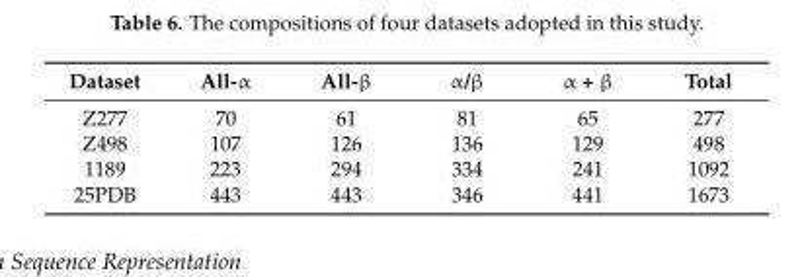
<table><thead><tr><td>Dataset</td><td>All-α</td><td>All-β</td><td>α/β</td><td>α + β</td><td>Total</td></tr></thead><tbody><tr><td>Z277</td><td>70</td><td>61</td><td>81</td><td>65</td><td>277</td></tr><tr><td>Z498</td><td>107</td><td>126</td><td>136</td><td>129</td><td>498</td></tr><tr><td>1189</td><td>223</td><td>294</td><td>334</td><td>241</td><td>1092</td></tr><tr><td>25PDB</td><td>443</td><td>443</td><td>346</td><td>441</td><td>1673</td></tr></tbody></table>